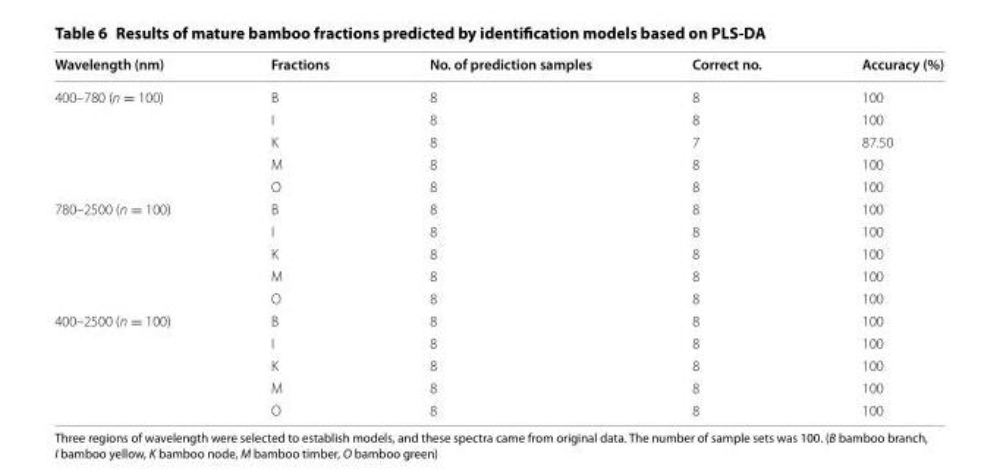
<table><thead><tr><td>Wavelength (nm)</td><td>Fractions</td><td>No. of prediction samples</td><td>Correct no.</td><td>Accuracy (%)</td></tr></thead><tbody><tr><td rowspan="5">400–780 (n = 100)</td><td>B</td><td>8</td><td>8</td><td>100</td></tr><tr><td>I</td><td>8</td><td>8</td><td>100</td></tr><tr><td>K</td><td>8</td><td>7</td><td>87.50</td></tr><tr><td>M</td><td>8</td><td>8</td><td>100</td></tr><tr><td>O</td><td>8</td><td>8</td><td>100</td></tr><tr><td rowspan="5">780–2500 (n = 100)</td><td>B</td><td>8</td><td>8</td><td>100</td></tr><tr><td>I</td><td>8</td><td>8</td><td>100</td></tr><tr><td>K</td><td>8</td><td>8</td><td>100</td></tr><tr><td>M</td><td>8</td><td>8</td><td>100</td></tr><tr><td>O</td><td>8</td><td>8</td><td>100</td></tr><tr><td rowspan="5">400–2500 (n = 100)</td><td>B</td><td>8</td><td>8</td><td>100</td></tr><tr><td>I</td><td>8</td><td>8</td><td>100</td></tr><tr><td>K</td><td>8</td><td>8</td><td>100</td></tr><tr><td>M</td><td>8</td><td>8</td><td>100</td></tr><tr><td>O</td><td>8</td><td>8</td><td>100</td></tr></tbody></table>